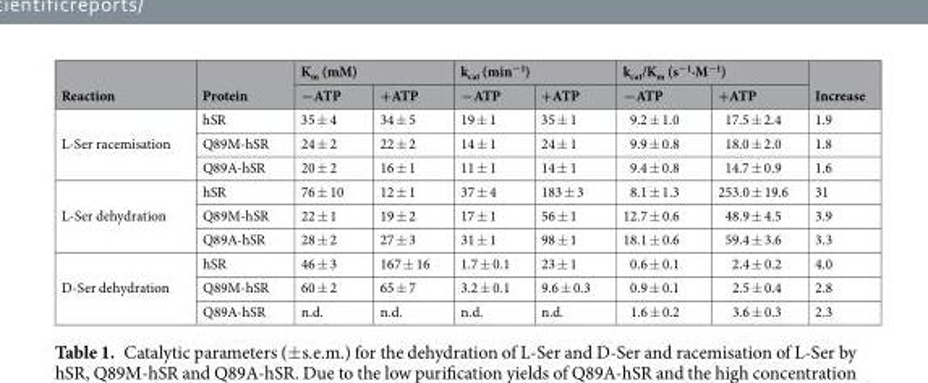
<table><thead><tr><td rowspan="2">Reaction</td><td rowspan="2">Protein</td><td colspan="2">K<sub>m</sub> (mM)</td><td colspan="2">k<sub>cat</sub> (min<sup>−1</sup>)</td><td colspan="2">k<sub>cat</sub>/K<sub>m</sub> (s<sup>−1</sup>·M<sup>−1</sup>)</td><td rowspan="2">Increase</td></tr><tr><td>−ATP</td><td>+ATP</td><td>−ATP</td><td>+ATP</td><td>−ATP</td><td>+ATP</td></tr></thead><tbody><tr><td rowspan="3">L-Ser racemisation</td><td>hSR</td><td>35 ± 4</td><td>34 ± 5</td><td>19 ± 1</td><td>35 ± 1</td><td>9.2 ± 1.0</td><td>17.5 ± 2.4</td><td>1.9</td></tr><tr><td>Q89M-hSR</td><td>24 ± 2</td><td>22 ± 2</td><td>14 ± 1</td><td>24 ± 1</td><td>9.9 ± 0.8</td><td>18.0 ± 2.0</td><td>1.8</td></tr><tr><td>Q89A-hSR</td><td>20 ± 2</td><td>16 ± 1</td><td>11 ± 1</td><td>14 ± 1</td><td>9.4 ± 0.8</td><td>14.7 ± 0.9</td><td>1.6</td></tr><tr><td rowspan="3">L-Ser dehydration</td><td>hSR</td><td>76 ± 10</td><td>12 ± 1</td><td>37 ± 4</td><td>183 ± 3</td><td>8.1 ± 1.3</td><td>253.0 ± 19.6</td><td>31</td></tr><tr><td>Q89M-hSR</td><td>22 ± 1</td><td>19 ± 2</td><td>17 ± 1</td><td>56 ± 1</td><td>12.7 ± 0.6</td><td>48.9 ± 4.5</td><td>3.9</td></tr><tr><td>Q89A-hSR</td><td>28 ± 2</td><td>27 ± 3</td><td>31 ± 1</td><td>98 ± 1</td><td>18.1 ± 0.6</td><td>59.4 ± 3.6</td><td>3.3</td></tr><tr><td rowspan="3">D-Ser dehydration</td><td>hSR</td><td>46 ± 3</td><td>167 ± 16</td><td>1.7 ± 0.1</td><td>23 ± 1</td><td>0.6 ± 0.1</td><td>2.4 ± 0.2</td><td>4.0</td></tr><tr><td>Q89M-hSR</td><td>60 ± 2</td><td>65 ± 7</td><td>3.2 ± 0.1</td><td>9.6 ± 0.3</td><td>0.9 ± 0.1</td><td>2.5 ± 0.4</td><td>2.8</td></tr><tr><td>Q89A-hSR</td><td>n.d.</td><td>n.d.</td><td>n.d.</td><td>n.d.</td><td>1.6 ± 0.2</td><td>3.6 ± 0.3</td><td>2.3</td></tr></tbody></table>